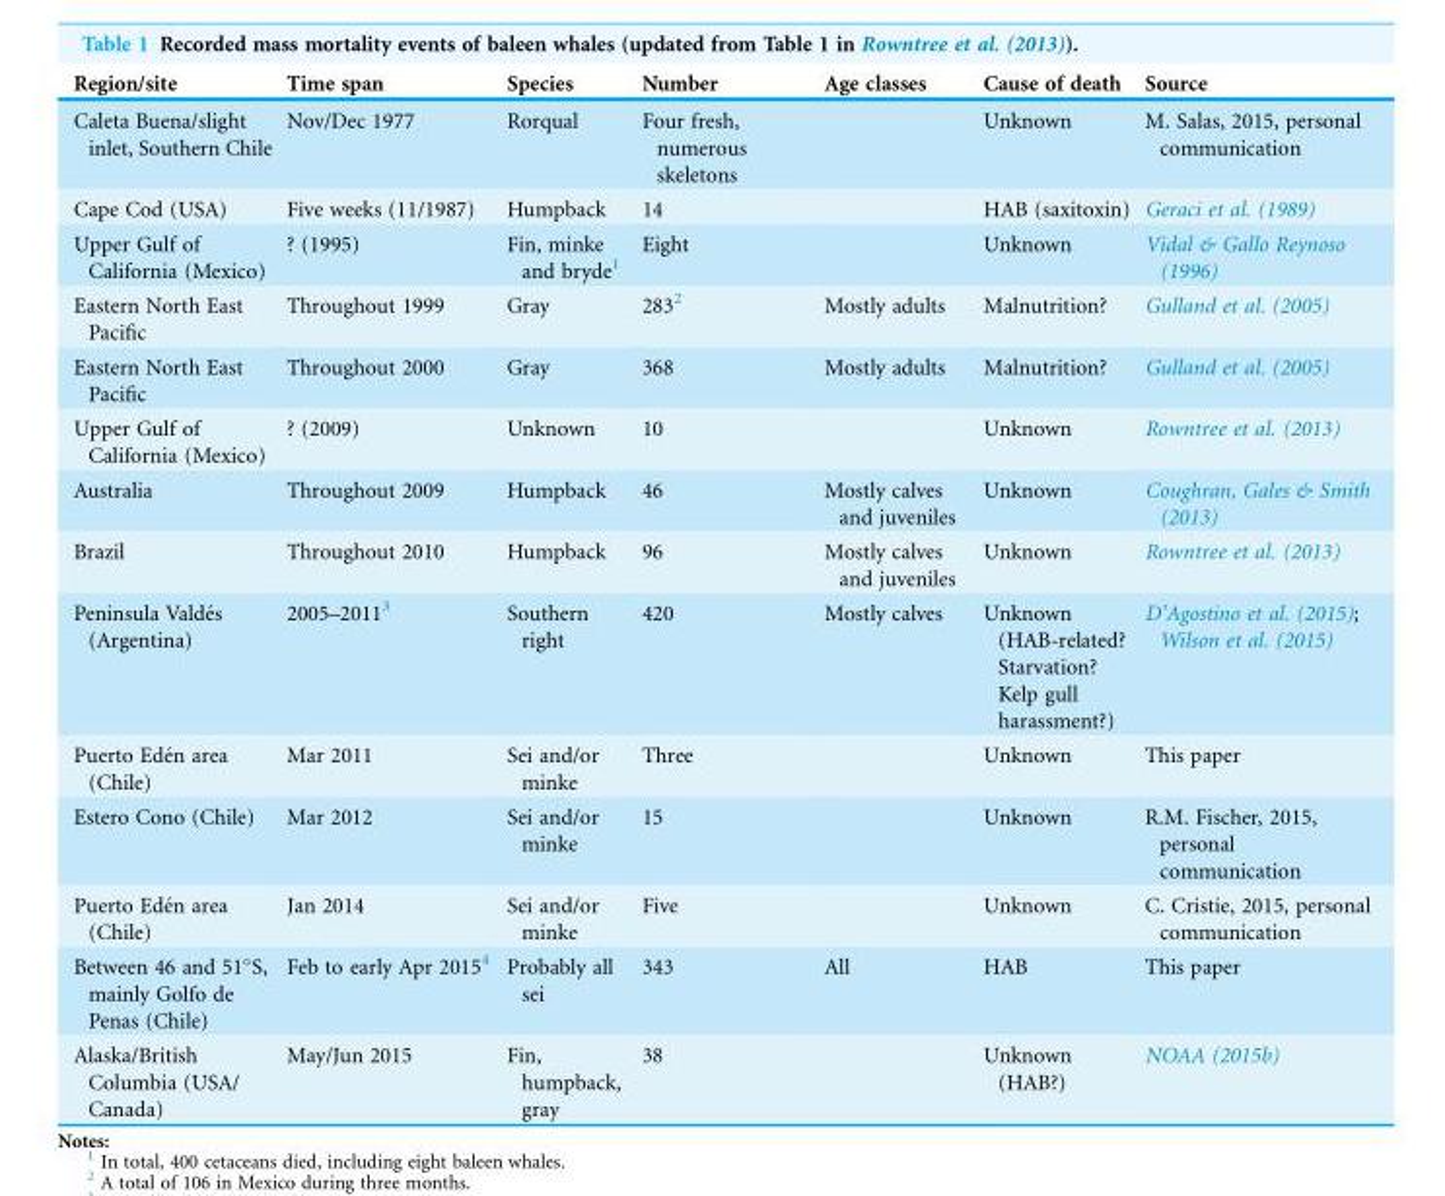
<table><thead><tr><td>Region/site</td><td>Time span</td><td>Species</td><td>Number</td><td>Age classes</td><td>Cause of death</td><td>Source</td></tr></thead><tbody><tr><td>Caleta Buena/slight inlet, Southern Chile</td><td>Nov/Dec 1977</td><td>Rorqual</td><td>Four fresh, numerous skeletons</td><td></td><td>Unknown</td><td>M. Salas, 2015, personal communication</td></tr><tr><td>Cape Cod (USA)</td><td>Five weeks (11/1987)</td><td>Humpback</td><td>14</td><td></td><td>HAB (saxitoxin)</td><td>Geraci et al. (1989)</td></tr><tr><td>Upper Gulf of California (Mexico)</td><td>? (1995)</td><td>Fin, minke and bryde<sup>1</sup></td><td>Eight</td><td></td><td>Unknown</td><td>Vidal &amp; Gallo Reynoso (1996)</td></tr><tr><td>Eastern North East Pacific</td><td>Throughout 1999</td><td>Gray</td><td>283<sup>2</sup></td><td>Mostly adults</td><td>Malnutrition?</td><td>Gulland et al. (2005)</td></tr><tr><td>Eastern North East Pacific</td><td>Throughout 2000</td><td>Gray</td><td>368</td><td>Mostly adults</td><td>Malnutrition?</td><td>Gulland et al. (2005)</td></tr><tr><td>Upper Gulf of California (Mexico)</td><td>? (2009)</td><td>Unknown</td><td>10</td><td></td><td>Unknown</td><td>Rowntree et al. (2013)</td></tr><tr><td>Australia</td><td>Throughout 2009</td><td>Humpback</td><td>46</td><td>Mostly calves and juveniles</td><td>Unknown</td><td>Coughran, Gales &amp; Smith (2013)</td></tr><tr><td>Brazil</td><td>Throughout 2010</td><td>Humpback</td><td>96</td><td>Mostly calves and juveniles</td><td>Unknown</td><td>Rowntree et al. (2013)</td></tr><tr><td>Peninsula Valde´s (Argentina)</td><td>2005–2011<sup>3</sup></td><td>Southern right</td><td>420</td><td>Mostly calves</td><td>Unknown (HAB-related? Starvation? Kelp gull harassment?)</td><td>D’Agostino et al. (2015); Wilson et al. (2015)</td></tr><tr><td>Puerto Ede´n area (Chile)</td><td>Mar 2011</td><td>Sei and/or minke</td><td>Three</td><td></td><td>Unknown</td><td>This paper</td></tr><tr><td>Estero Cono (Chile)</td><td>Mar 2012</td><td>Sei and/or minke</td><td>15</td><td></td><td>Unknown</td><td>R.M. Fischer, 2015, personal communication</td></tr><tr><td>Puerto Ede´n area (Chile)</td><td>Jan 2014</td><td>Sei and/or minke</td><td>Five</td><td></td><td>Unknown</td><td>C. Cristie, 2015, personal communication</td></tr><tr><td>Between 46 and 51°S, mainly Golfo de Penas (Chile)</td><td>Feb to early Apr 2015<sup>4</sup></td><td>Probably all sei</td><td>343</td><td>All</td><td>HAB</td><td>This paper</td></tr><tr><td>Alaska/British Columbia (USA/ Canada)</td><td>May/Jun 2015</td><td>Fin, humpback, gray</td><td>38</td><td></td><td>Unknown (HAB?)</td><td>NOAA (2015b)</td></tr></tbody></table>